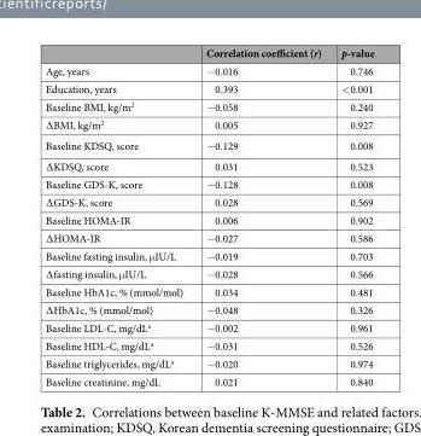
<table><thead><tr><td></td><td>Correlation coefficient (r)</td><td>p-value</td></tr></thead><tbody><tr><td>Age, years</td><td>−0.016</td><td>0.746</td></tr><tr><td>Education, years</td><td>0.393</td><td>&lt;0.001</td></tr><tr><td>Baseline BMI, kg/m<sup>2</sup></td><td>−0.058</td><td>0.240</td></tr><tr><td>∆BMI, kg/m<sup>2</sup></td><td>0.005</td><td>0.927</td></tr><tr><td>Baseline KDSQ, score</td><td>−0.129</td><td>0.008</td></tr><tr><td>∆KDSQ, score</td><td>0.031</td><td>0.523</td></tr><tr><td>Baseline GDS-K, score</td><td>−0.128</td><td>0.008</td></tr><tr><td>∆GDS-K, score</td><td>0.028</td><td>0.569</td></tr><tr><td>Baseline HOMA-IR</td><td>0.006</td><td>0.902</td></tr><tr><td>∆HOMA-IR</td><td>−0.027</td><td>0.586</td></tr><tr><td>Baseline fasting insulin, μIU/L</td><td>−0.019</td><td>0.703</td></tr><tr><td>∆fasting insulin, μIU/L</td><td>−0.028</td><td>0.566</td></tr><tr><td>Baseline HbA1c, % (mmol/mol)</td><td>0.034</td><td>0.481</td></tr><tr><td>∆HbA1c, % (mmol/mol)</td><td>−0.048</td><td>0.326</td></tr><tr><td>Baseline LDL-C, mg/dL<sup>a</sup></td><td>−0.002</td><td>0.961</td></tr><tr><td>Baseline HDL-C, mg/dL<sup>a</sup></td><td>−0.031</td><td>0.526</td></tr><tr><td>Baseline triglycerides, mg/dL<sup>a</sup></td><td>−0.020</td><td>0.974</td></tr><tr><td>Baseline creatinine, mg/dL</td><td>0.021</td><td>0.840</td></tr></tbody></table>